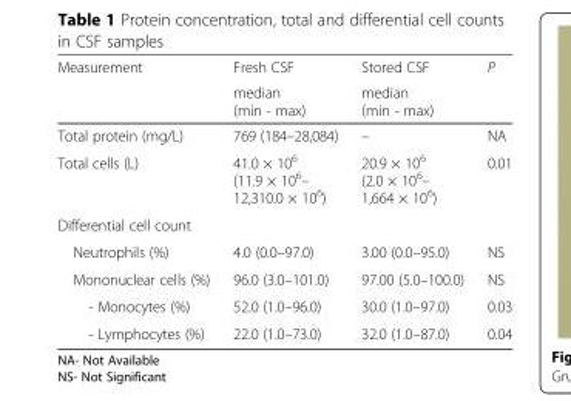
<table><thead><tr><td rowspan="2">Measurement</td><td rowspan="2">Fresh CSF median (min - max)</td><td rowspan="2">Stored CSF median (min - max)</td><td rowspan="2">P</td></tr><tr></tr></thead><tbody><tr><td>Total protein (mg/L)</td><td>769 (184–28,084)</td><td>–</td><td>NA</td></tr><tr><td>Total cells (L)</td><td>41.0 × 10<sup>6</sup> (11.9 × 10<sup>6</sup>– 12,310.0 × 10<sup>6</sup>)</td><td>20.9 × 10<sup>6</sup> (2.0 × 10<sup>6</sup>– 1,664 × 10<sup>6</sup>)</td><td>0.01</td></tr><tr><td colspan="4">Differential cell count</td></tr><tr><td>Neutrophils (%)</td><td>4.0 (0.0–97.0)</td><td>3.00 (0.0–95.0)</td><td>NS</td></tr><tr><td>Mononuclear cells (%)</td><td>96.0 (3.0–101.0)</td><td>97.00 (5.0–100.0)</td><td>NS</td></tr><tr><td>- Monocytes (%)</td><td>52.0 (1.0–96.0)</td><td>30.0 (1.0–97.0)</td><td>0.03</td></tr><tr><td>- Lymphocytes (%)</td><td>22.0 (1.0–73.0)</td><td>32.0 (1.0–87.0)</td><td>0.04</td></tr></tbody></table>